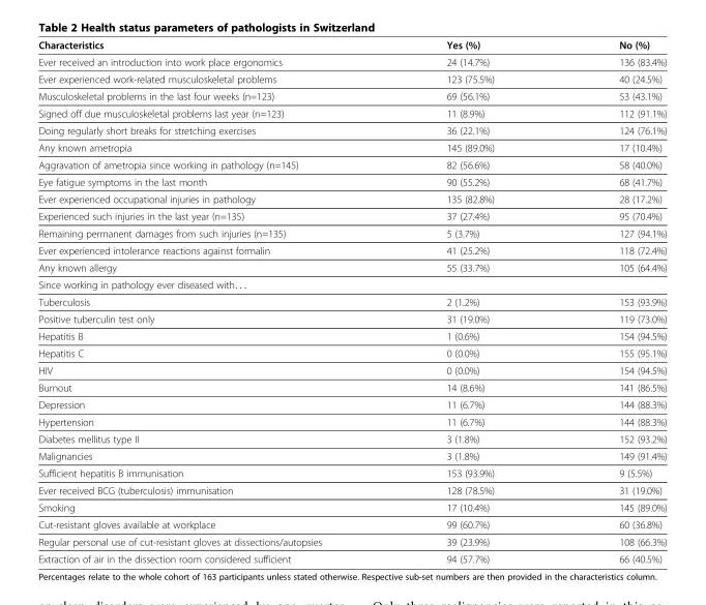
<table><thead><tr><td>Characteristics</td><td>Yes (%)</td><td>No (%)</td></tr></thead><tbody><tr><td>Ever received an introduction into work place ergonomics</td><td>24 (14.7%)</td><td>136 (83.4%)</td></tr><tr><td>Ever experienced work-related musculoskeletal problems</td><td>123 (75.5%)</td><td>40 (24.5%)</td></tr><tr><td>Musculoskeletal problems in the last four weeks (n=123)</td><td>69 (56.1%)</td><td>53 (43.1%)</td></tr><tr><td>Signed off due musculoskeletal problems last year (n=123)</td><td>11 (8.9%)</td><td>112 (91.1%)</td></tr><tr><td>Doing regularly short breaks for stretching exercises</td><td>36 (22.1%)</td><td>124 (76.1%)</td></tr><tr><td>Any known ametropia</td><td>145 (89.0%)</td><td>17 (10.4%)</td></tr><tr><td>Aggravation of ametropia since working in pathology (n=145)</td><td>82 (56.6%)</td><td>58 (40.0%)</td></tr><tr><td>Eye fatigue symptoms in the last month</td><td>90 (55.2%)</td><td>68 (41.7%)</td></tr><tr><td>Ever experienced occupational injuries in pathology</td><td>135 (82.8%)</td><td>28 (17.2%)</td></tr><tr><td>Experienced such injuries in the last year (n=135)</td><td>37 (27.4%)</td><td>95 (70.4%)</td></tr><tr><td>Remaining permanent damages from such injuries (n=135)</td><td>5 (3.7%)</td><td>127 (94.1%)</td></tr><tr><td>Ever experienced intolerance reactions against formalin</td><td>41 (25.2%)</td><td>118 (72.4%)</td></tr><tr><td>Any known allergy</td><td>55 (33.7%)</td><td>105 (64.4%)</td></tr><tr><td colspan="3">Since working in pathology ever diseased with. . .</td></tr><tr><td>Tuberculosis</td><td>2 (1.2%)</td><td>153 (93.9%)</td></tr><tr><td>Positive tuberculin test only</td><td>31 (19.0%)</td><td>119 (73.0%)</td></tr><tr><td>Hepatitis B</td><td>1 (0.6%)</td><td>154 (94.5%)</td></tr><tr><td>Hepatitis C</td><td>0 (0.0%)</td><td>155 (95.1%)</td></tr><tr><td>HIV</td><td>0 (0.0%)</td><td>154 (94.5%)</td></tr><tr><td>Burnout</td><td>14 (8.6%)</td><td>141 (86.5%)</td></tr><tr><td>Depression</td><td>11 (6.7%)</td><td>144 (88.3%)</td></tr><tr><td>Hypertension</td><td>11 (6.7%)</td><td>144 (88.3%)</td></tr><tr><td>Diabetes mellitus type II</td><td>3 (1.8%)</td><td>152 (93.2%)</td></tr><tr><td>Malignancies</td><td>3 (1.8%)</td><td>149 (91.4%)</td></tr><tr><td>Sufficient hepatitis B immunisation</td><td>153 (93.9%)</td><td>9 (5.5%)</td></tr><tr><td>Ever received BCG (tuberculosis) immunisation</td><td>128 (78.5%)</td><td>31 (19.0%)</td></tr><tr><td>Smoking</td><td>17 (10.4%)</td><td>145 (89.0%)</td></tr><tr><td>Cut-resistant gloves available at workplace</td><td>99 (60.7%)</td><td>60 (36.8%)</td></tr><tr><td>Regular personal use of cut-resistant gloves at dissections/autopsies</td><td>39 (23.9%)</td><td>108 (66.3%)</td></tr><tr><td>Extraction of air in the dissection room considered sufficient</td><td>94 (57.7%)</td><td>66 (40.5%)</td></tr></tbody></table>